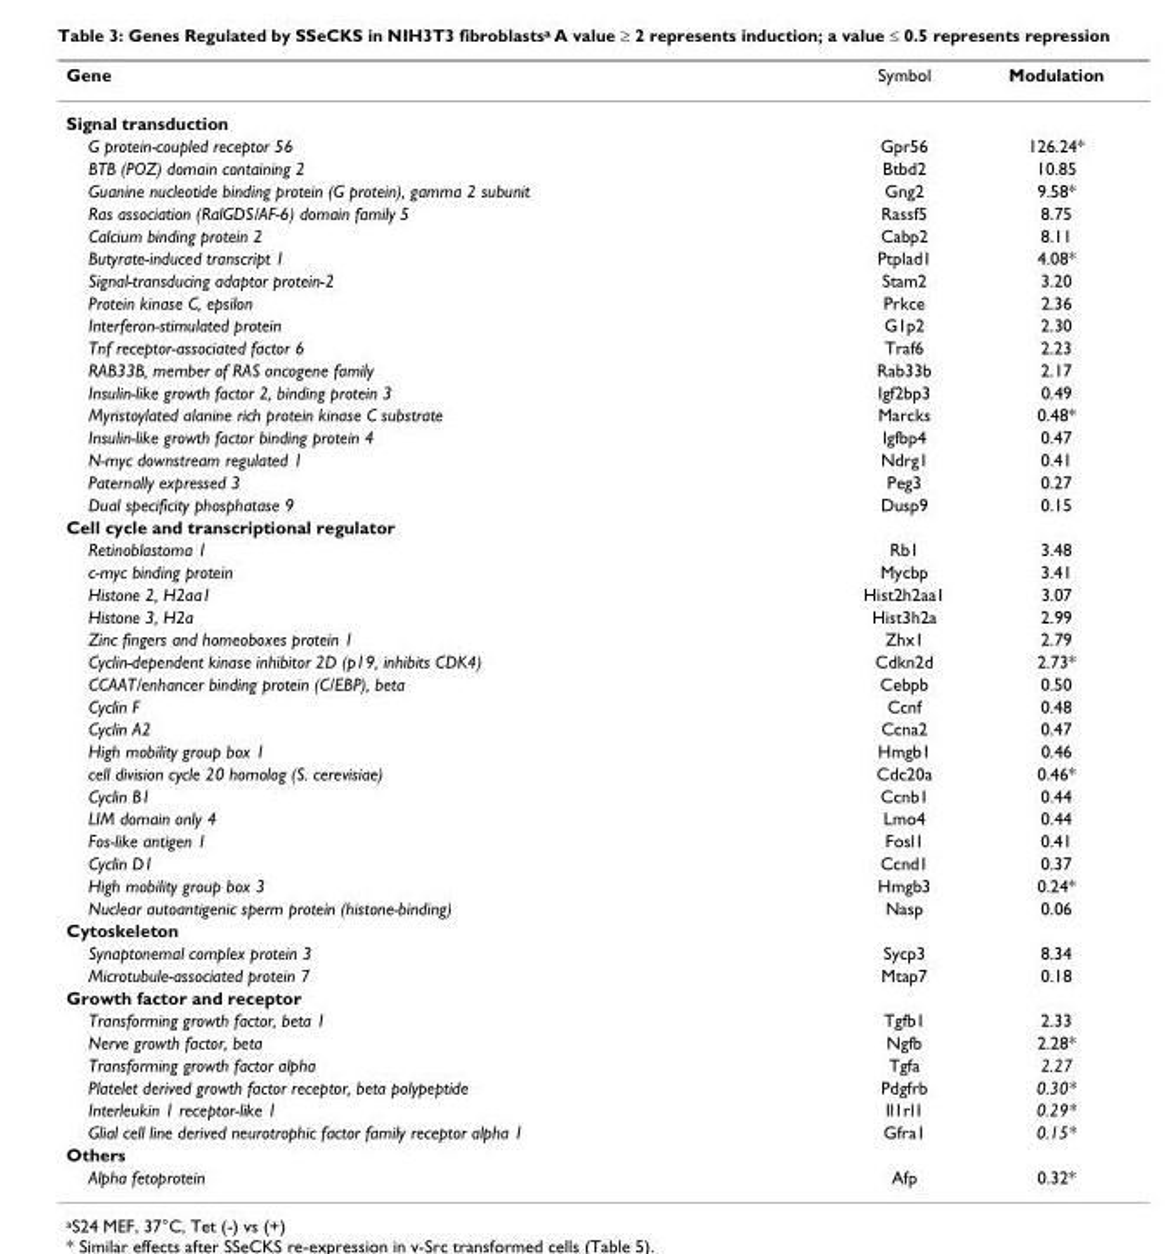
<table><thead><tr><td>Gene</td><td>Symbol</td><td>Modulation</td></tr></thead><tbody><tr><td colspan="3">Signal transduction</td></tr><tr><td>G protein-coupled receptor 56</td><td>Gpr56</td><td>126.24*</td></tr><tr><td>BTB (POZ) domain containing 2</td><td>Btbd2</td><td>10.85</td></tr><tr><td>Guanine nucleotide binding protein (G protein), gamma 2 subunit</td><td>Gng2</td><td>9.58*</td></tr><tr><td>Ras association (RalGDS/AF-6) domain family 5</td><td>Rassf5</td><td>8.75</td></tr><tr><td>Calcium binding protein 2</td><td>Cabp2</td><td>8.11</td></tr><tr><td>Butyrate-induced transcript 1</td><td>Ptplad1</td><td>4.08*</td></tr><tr><td>Signal-transducing adaptor protein-2</td><td>Stam2</td><td>3.20</td></tr><tr><td>Protein kinase C, epsilon</td><td>Prkce</td><td>2.36</td></tr><tr><td>Interferon-stimulated protein</td><td>G1p2</td><td>2.30</td></tr><tr><td>Tnf receptor-associated factor 6</td><td>Traf6</td><td>2.23</td></tr><tr><td>RAB33B, member of RAS oncogene family</td><td>Rab33b</td><td>2.17</td></tr><tr><td>Insulin-like growth factor 2, binding protein 3</td><td>Igf2bp3</td><td>0.49</td></tr><tr><td>Myristoylated alanine rich protein kinase C substrate</td><td>Marcks</td><td>0.48*</td></tr><tr><td>Insulin-like growth factor binding protein 4</td><td>Igfbp4</td><td>0.47</td></tr><tr><td>N-myc downstream regulated 1</td><td>Ndrg1</td><td>0.41</td></tr><tr><td>Paternally expressed 3</td><td>Peg3</td><td>0.27</td></tr><tr><td>Dual specificity phosphatase 9</td><td>Dusp9</td><td>0.15</td></tr><tr><td colspan="3">Cell cycle and transcriptional regulator</td></tr><tr><td>Retinoblastoma 1</td><td>Rb1</td><td>3.48</td></tr><tr><td>c-myc binding protein</td><td>Mycbp</td><td>3.41</td></tr><tr><td>Histone 2, H2aa1</td><td>Hist2h2aa1</td><td>3.07</td></tr><tr><td>Histone 3, H2a</td><td>Hist3h2a</td><td>2.99</td></tr><tr><td>Zinc fingers and homeoboxes protein 1</td><td>Zhx1</td><td>2.79</td></tr><tr><td>Cyclin-dependent kinase inhibitor 2D (p19, inhibits CDK4)</td><td>Cdkn2d</td><td>2.73*</td></tr><tr><td>CCAAT/enhancer binding protein (C/EBP), beta</td><td>Cebpb</td><td>0.50</td></tr><tr><td>Cyclin F</td><td>Ccnf</td><td>0.48</td></tr><tr><td>Cyclin A2</td><td>Ccna2</td><td>0.47</td></tr><tr><td>High mobility group box 1</td><td>Hmgb1</td><td>0.46</td></tr><tr><td>cell division cycle 20 homolog (S. cerevisiae)</td><td>Cdc20a</td><td>0.46*</td></tr><tr><td>Cyclin B1</td><td>Ccnb1</td><td>0.44</td></tr><tr><td>LIM domain only 4</td><td>Lmo4</td><td>0.44</td></tr><tr><td>Fos-like antigen 1</td><td>Fosl1</td><td>0.41</td></tr><tr><td>Cyclin D1</td><td>Ccnd1</td><td>0.37</td></tr><tr><td>High mobility group box 3</td><td>Hmgb3</td><td>0.24*</td></tr><tr><td>Nuclear autoantigenic sperm protein (histone-binding)</td><td>Nasp</td><td>0.06</td></tr><tr><td colspan="3">Cytoskeleton</td></tr><tr><td>Synaptonemal complex protein 3</td><td>Sycp3</td><td>8.34</td></tr><tr><td>Microtubule-associated protein 7</td><td>Mtap7</td><td>0.18</td></tr><tr><td colspan="3">Growth factor and receptor</td></tr><tr><td>Transforming growth factor, beta 1</td><td>Tgfb1</td><td>2.33</td></tr><tr><td>Nerve growth factor, beta</td><td>Ngfb</td><td>2.28*</td></tr><tr><td>Transforming growth factor alpha</td><td>Tgfa</td><td>2.27</td></tr><tr><td>Platelet derived growth factor receptor, beta polypeptide</td><td>Pdgfrb</td><td>0.30*</td></tr><tr><td>Interleukin 1 receptor-like 1</td><td>Il1rl1</td><td>0.29*</td></tr><tr><td>Glial cell line derived neurotrophic factor family receptor alpha 1</td><td>Gfra1</td><td>0.15*</td></tr><tr><td colspan="3">Others</td></tr><tr><td>Alpha fetoprotein</td><td>Afp</td><td>0.32*</td></tr></tbody></table>